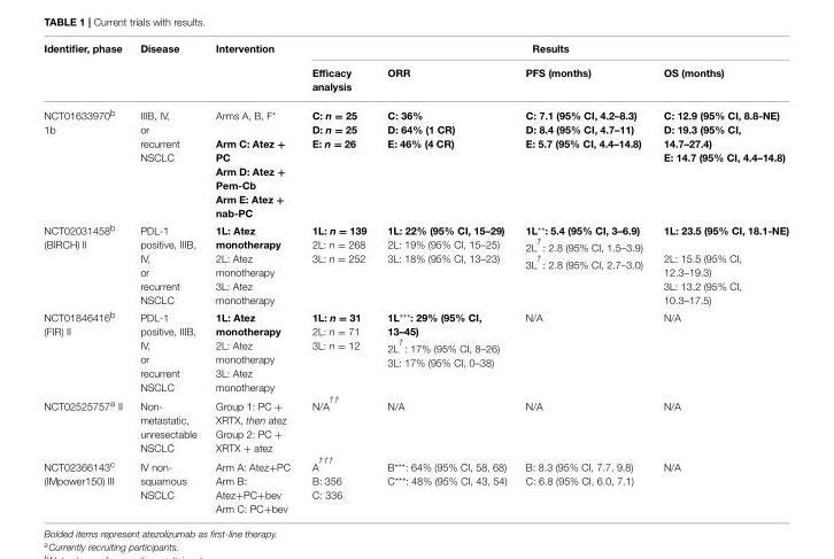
<table><thead><tr><td rowspan="2">Identifier, phase</td><td rowspan="2">Disease</td><td rowspan="2">Intervention</td><td colspan="4">Results</td></tr><tr><td>Efficacy analysis</td><td>ORR</td><td>PFS (months)</td><td>OS (months)</td></tr></thead><tbody><tr><td>NCT01633970<sup>b</sup> 1b</td><td>IIIB, IV, or recurrent NSCLC</td><td>Arms A, B, F* Arm C: Atez + PC Arm D: Atez + Pem-Cb Arm E: Atez + nab-PC</td><td>C: n = 25 D: n = 25 E: n = 26</td><td>C: 36% D: 64% (1 CR) E: 46% (4 CR)</td><td>C: 7.1 (95% CI, 4.2–8.3) D: 8.4 (95% CI, 4.7–11) E: 5.7 (95% CI, 4.4–14.8)</td><td>C: 12.9 (95% CI, 8.8-NE) D: 19.3 (95% CI, 14.7–27.4) E: 14.7 (95% CI, 4.4–14.8)</td></tr><tr><td>NCT02031458<sup>b</sup> (BIRCH) II</td><td>PDL-1 positive, IIIB, IV, or recurrent NSCLC</td><td>1L: Atez monotherapy 2L: Atez monotherapy 3L: Atez monotherapy</td><td>1L: n = 139 2L: n = 268 3L: n = 252</td><td>1L: 22% (95% CI, 15–29) 2L: 19% (95% CI, 15–25) 3L: 18% (95% CI, 13–23)</td><td>1L**: 5.4 (95% CI, 3–6.9) 2L <sup>†</sup> : 2.8 (95% CI, 1.5–3.9) 3L <sup>†</sup> : 2.8 (95% CI, 2.7–3.0)</td><td>1L: 23.5 (95% CI, 18.1-NE) 2L: 15.5 (95% CI, 12.3–19.3) 3L: 13.2 (95% CI, 10.3–17.5)</td></tr><tr><td>NCT01846416<sup>b</sup> (FIR) II</td><td>PDL-1 positive, IIIB, IV, or recurrent NSCLC</td><td>1L: Atez monotherapy 2L: Atez monotherapy 3L: Atez monotherapy</td><td>1L: n = 31 2L: n = 71 3L: n = 12</td><td>1L***: 29% (95% CI, 13–45) 2L <sup>†</sup> : 17% (95% CI, 8–26) 3L: 17% (95% CI, 0–38)</td><td>N/A</td><td>N/A</td></tr><tr><td>NCT02525757<sup>a</sup> II</td><td>Non- metastatic, unresectable NSCLC</td><td>Group 1: PC + XRTX, then atez Group 2: PC + XRTX + atez</td><td>N/A <sup>††</sup></td><td>N/A</td><td>N/A</td><td>N/A</td></tr><tr><td>NCT02366143<sup>c</sup> (IMpower150) III</td><td>IV non- squamous NSCLC</td><td>Arm A: Atez+PC Arm B: Atez+PC+bev Arm C: PC+bev</td><td>A <sup>†††</sup> B: 356 C: 336</td><td>B***: 64% (95% CI, 58, 68) C***: 48% (95% CI, 43, 54)</td><td>B: 8.3 (95% CI, 7.7, 9.8) C: 6.8 (95% CI, 6.0, 7.1)</td><td>N/A</td></tr></tbody></table>